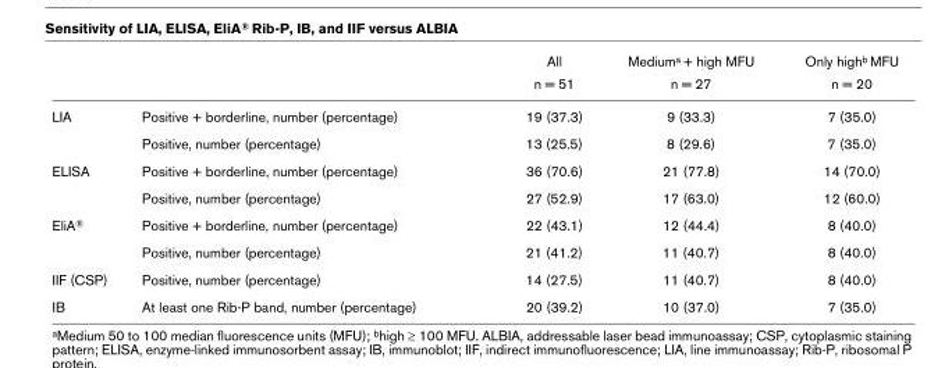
<table><thead><tr><td rowspan="2"></td><td rowspan="2"></td><td rowspan="2">All n = 51</td><td rowspan="2">Medium<sup>a</sup> + high MFU n = 27</td><td rowspan="2">Only high<sup>b</sup> MFU n = 20</td></tr><tr></tr></thead><tbody><tr><td rowspan="2">LIA</td><td>Positive + borderline, number (percentage)</td><td>19 (37.3)</td><td>9 (33.3)</td><td>7 (35.0)</td></tr><tr><td>Positive, number (percentage)</td><td>13 (25.5)</td><td>8 (29.6)</td><td>7 (35.0)</td></tr><tr><td rowspan="2">ELISA</td><td>Positive + borderline, number (percentage)</td><td>36 (70.6)</td><td>21 (77.8)</td><td>14 (70.0)</td></tr><tr><td>Positive, number (percentage)</td><td>27 (52.9)</td><td>17 (63.0)</td><td>12 (60.0)</td></tr><tr><td rowspan="2">EliA<sup>®</sup></td><td>Positive + borderline, number (percentage)</td><td>22 (43.1)</td><td>12 (44.4)</td><td>8 (40.0)</td></tr><tr><td>Positive, number (percentage)</td><td>21 (41.2)</td><td>11 (40.7)</td><td>8 (40.0)</td></tr><tr><td>IIF (CSP)</td><td>Positive, number (percentage)</td><td>14 (27.5)</td><td>11 (40.7)</td><td>8 (40.0)</td></tr><tr><td>IB</td><td>At least one Rib-P band, number (percentage)</td><td>20 (39.2)</td><td>10 (37.0)</td><td>7 (35.0)</td></tr></tbody></table>